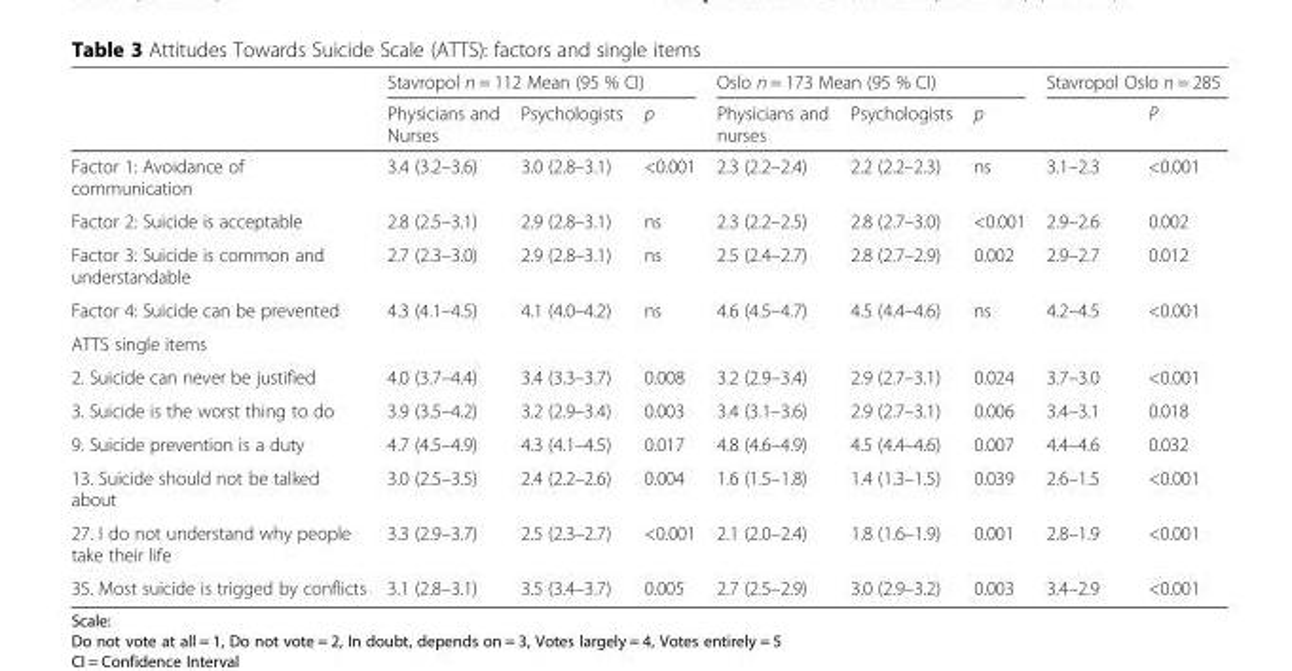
<table><thead><tr><td rowspan="2"></td><td colspan="3">Stavropol n = 112 Mean (95 % CI)</td><td colspan="3">Oslo n = 173 Mean (95 % CI)</td><td colspan="2">Stavropol Oslo n = 285</td></tr><tr><td>Physicians and Nurses</td><td>Psychologists</td><td>p</td><td>Physicians and nurses</td><td>Psychologists</td><td>p</td><td></td><td>P</td></tr></thead><tbody><tr><td>Factor 1: Avoidance of communication</td><td>3.4 (3.2–3.6)</td><td>3.0 (2.8–3.1)</td><td>&lt;0.001</td><td>2.3 (2.2–2.4)</td><td>2.2 (2.2–2.3)</td><td>ns</td><td>3.1–2.3</td><td>&lt;0.001</td></tr><tr><td>Factor 2: Suicide is acceptable</td><td>2.8 (2.5–3.1)</td><td>2.9 (2.8–3.1)</td><td>ns</td><td>2.3 (2.2–2.5)</td><td>2.8 (2.7–3.0)</td><td>&lt;0.001</td><td>2.9–2.6</td><td>0.002</td></tr><tr><td>Factor 3: Suicide is common and understandable</td><td>2.7 (2.3–3.0)</td><td>2.9 (2.8–3.1)</td><td>ns</td><td>2.5 (2.4–2.7)</td><td>2.8 (2.7–2.9)</td><td>0.002</td><td>2.9–2.7</td><td>0.012</td></tr><tr><td>Factor 4: Suicide can be prevented</td><td>4.3 (4.1–4.5)</td><td>4.1 (4.0–4.2)</td><td>ns</td><td>4.6 (4.5–4.7)</td><td>4.5 (4.4–4.6)</td><td>ns</td><td>4.2–4.5</td><td>&lt;0.001</td></tr><tr><td colspan="9">ATTS single items</td></tr><tr><td>2. Suicide can never be justified</td><td>4.0 (3.7–4.4)</td><td>3.4 (3.3–3.7)</td><td>0.008</td><td>3.2 (2.9–3.4)</td><td>2.9 (2.7–3.1)</td><td>0.024</td><td>3.7–3.0</td><td>&lt;0.001</td></tr><tr><td>3. Suicide is the worst thing to do</td><td>3.9 (3.5–4.2)</td><td>3.2 (2.9–3.4)</td><td>0.003</td><td>3.4 (3.1–3.6)</td><td>2.9 (2.7–3.1)</td><td>0.006</td><td>3.4–3.1</td><td>0.018</td></tr><tr><td>9. Suicide prevention is a duty</td><td>4.7 (4.5–4.9)</td><td>4.3 (4.1–4.5)</td><td>0.017</td><td>4.8 (4.6–4.9)</td><td>4.5 (4.4–4.6)</td><td>0.007</td><td>4.4–4.6</td><td>0.032</td></tr><tr><td>13. Suicide should not be talked about</td><td>3.0 (2.5–3.5)</td><td>2.4 (2.2–2.6)</td><td>0.004</td><td>1.6 (1.5–1.8)</td><td>1.4 (1.3–1.5)</td><td>0.039</td><td>2.6–1.5</td><td>&lt;0.001</td></tr><tr><td>27. I do not understand why people take their life</td><td>3.3 (2.9–3.7)</td><td>2.5 (2.3–2.7)</td><td>&lt;0.001</td><td>2.1 (2.0–2.4)</td><td>1.8 (1.6–1.9)</td><td>0.001</td><td>2.8–1.9</td><td>&lt;0.001</td></tr><tr><td>35. Most suicide is trigged by conflicts</td><td>3.1 (2.8–3.1)</td><td>3.5 (3.4–3.7)</td><td>0.005</td><td>2.7 (2.5–2.9)</td><td>3.0 (2.9–3.2)</td><td>0.003</td><td>3.4–2.9</td><td>&lt;0.001</td></tr></tbody></table>